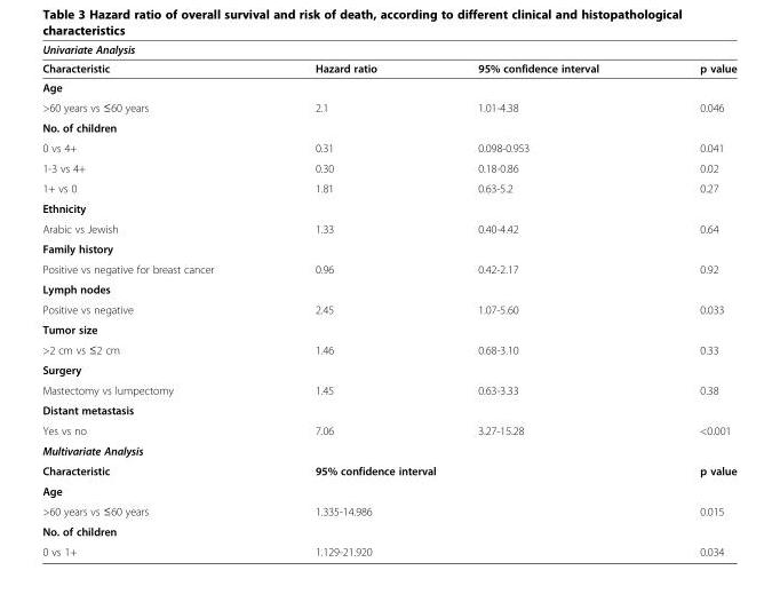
<table><thead><tr><td colspan="4">Univariate Analysis</td></tr><tr><td>Characteristic</td><td>Hazard ratio</td><td>95% confidence interval</td><td>p value</td></tr></thead><tbody><tr><td colspan="4">Age</td></tr><tr><td>&gt;60 years vs ≤60 years</td><td>2.1</td><td>1.01-4.38</td><td>0.046</td></tr><tr><td colspan="4">No. of children</td></tr><tr><td>0 vs 4+</td><td>0.31</td><td>0.098-0.953</td><td>0.041</td></tr><tr><td>1-3 vs 4+</td><td>0.30</td><td>0.18-0.86</td><td>0.02</td></tr><tr><td>1+ vs 0</td><td>1.81</td><td>0.63-5.2</td><td>0.27</td></tr><tr><td colspan="4">Ethnicity</td></tr><tr><td>Arabic vs Jewish</td><td>1.33</td><td>0.40-4.42</td><td>0.64</td></tr><tr><td colspan="4">Family history</td></tr><tr><td>Positive vs negative for breast cancer</td><td>0.96</td><td>0.42-2.17</td><td>0.92</td></tr><tr><td colspan="4">Lymph nodes</td></tr><tr><td>Positive vs negative</td><td>2.45</td><td>1.07-5.60</td><td>0.033</td></tr><tr><td colspan="4">Tumor size</td></tr><tr><td>&gt;2 cm vs ≤2 cm</td><td>1.46</td><td>0.68-3.10</td><td>0.33</td></tr><tr><td colspan="4">Surgery</td></tr><tr><td>Mastectomy vs lumpectomy</td><td>1.45</td><td>0.63-3.33</td><td>0.38</td></tr><tr><td colspan="4">Distant metastasis</td></tr><tr><td>Yes vs no</td><td>7.06</td><td>3.27-15.28</td><td>&lt;0.001</td></tr><tr><td colspan="4">Multivariate Analysis</td></tr><tr><td>Characteristic</td><td colspan="2">95% confidence interval</td><td>p value</td></tr><tr><td colspan="4">Age</td></tr><tr><td>&gt;60 years vs ≤60 years</td><td colspan="2">1.335-14.986</td><td>0.015</td></tr><tr><td colspan="4">No. of children</td></tr><tr><td>0 vs 1+</td><td colspan="2">1.129-21.920</td><td>0.034</td></tr></tbody></table>